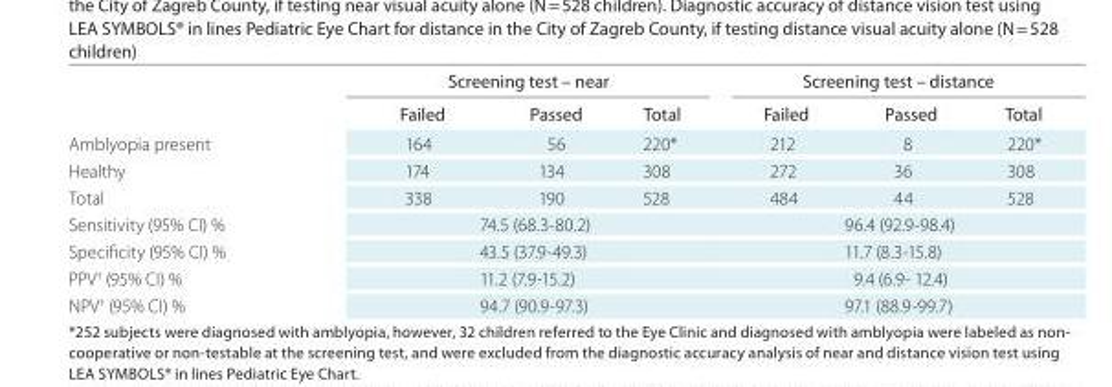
<table><thead><tr><td rowspan="2"></td><td colspan="3">Screening test – near</td><td colspan="3">Screening test – distance</td></tr><tr><td>Failed</td><td>Passed</td><td>Total</td><td>Failed</td><td>Passed</td><td>Total</td></tr></thead><tbody><tr><td>Amblyopia present</td><td>164</td><td>56</td><td>220*</td><td>212</td><td>8</td><td>220*</td></tr><tr><td>Healthy</td><td>174</td><td>134</td><td>308</td><td>272</td><td>36</td><td>308</td></tr><tr><td>Total</td><td>338</td><td>190</td><td>528</td><td>484</td><td>44</td><td>528</td></tr><tr><td>Sensitivity (95% CI) %</td><td colspan="3">74.5 (68.3-80.2)</td><td colspan="3">96.4 (92.9-98.4)</td></tr><tr><td>Specificity (95% CI) %</td><td colspan="3">43.5 (37.9-49.3)</td><td colspan="3">11.7 (8.3-15.8)</td></tr><tr><td>PPV<sup>†</sup> (95% CI) %</td><td colspan="3">11.2 (7.9-15.2)</td><td colspan="3">9.4 (6.9- 12.4)</td></tr><tr><td>NPV<sup>†</sup> (95% CI) %</td><td colspan="3">94.7 (90.9-97.3)</td><td colspan="3">97.1 (88.9-99.7)</td></tr></tbody></table>